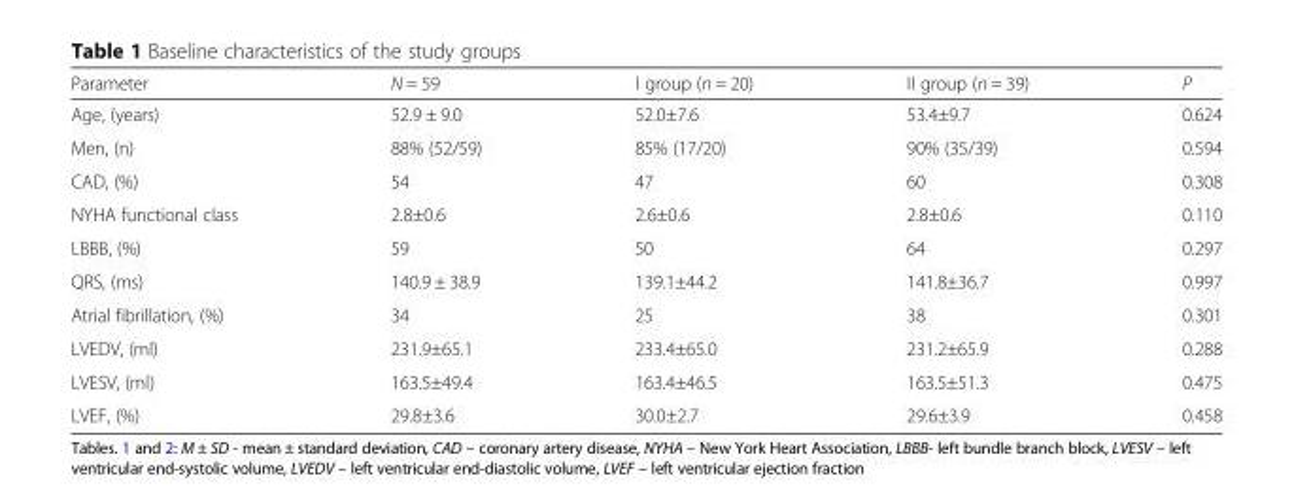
<table><thead><tr><td>Parameter</td><td>N = 59</td><td>I group (n = 20)</td><td>II group (n = 39)</td><td>Р</td></tr></thead><tbody><tr><td>Age, (years)</td><td>52.9 ± 9.0</td><td>52.0±7.6</td><td>53.4±9.7</td><td>0.624</td></tr><tr><td>Men, (n)</td><td>88% (52/59)</td><td>85% (17/20)</td><td>90% (35/39)</td><td>0.594</td></tr><tr><td>CAD, (%)</td><td>54</td><td>47</td><td>60</td><td>0.308</td></tr><tr><td>NYHA functional class</td><td>2.8±0.6</td><td>2.6±0.6</td><td>2.8±0.6</td><td>0.110</td></tr><tr><td>LBBB, (%)</td><td>59</td><td>50</td><td>64</td><td>0.297</td></tr><tr><td>QRS, (ms)</td><td>140.9 ± 38.9</td><td>139.1±44.2</td><td>141.8±36.7</td><td>0.997</td></tr><tr><td>Atrial fibrillation, (%)</td><td>34</td><td>25</td><td>38</td><td>0.301</td></tr><tr><td>LVEDV, (ml)</td><td>231.9±65.1</td><td>233.4±65.0</td><td>231.2±65.9</td><td>0.288</td></tr><tr><td>LVESV, (ml)</td><td>163.5±49.4</td><td>163.4±46.5</td><td>163.5±51.3</td><td>0.475</td></tr><tr><td>LVEF, (%)</td><td>29.8±3.6</td><td>30.0±2.7</td><td>29.6±3.9</td><td>0.458</td></tr></tbody></table>